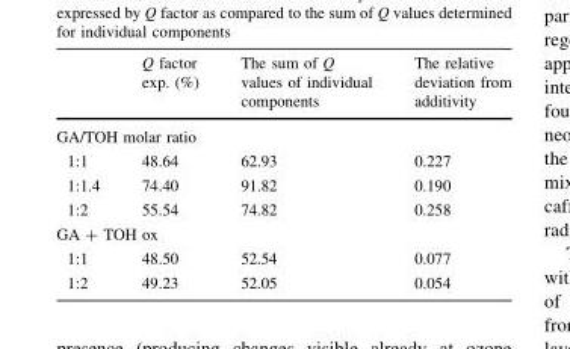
<table><thead><tr><td></td><td>Q factor exp. (%)</td><td>The sum of Q values of individual components</td><td>The relative deviation from additivity</td></tr></thead><tbody><tr><td colspan="4">GA/TOH molar ratio</td></tr><tr><td>1:1</td><td>48.64</td><td>62.93</td><td>0.227</td></tr><tr><td>1:1.4</td><td>74.40</td><td>91.82</td><td>0.190</td></tr><tr><td>1:2</td><td>55.54</td><td>74.82</td><td>0.258</td></tr><tr><td colspan="4">GA + TOH ox</td></tr><tr><td>1:1</td><td>48.50</td><td>52.54</td><td>0.077</td></tr><tr><td>1:2</td><td>49.23</td><td>52.05</td><td>0.054</td></tr></tbody></table>